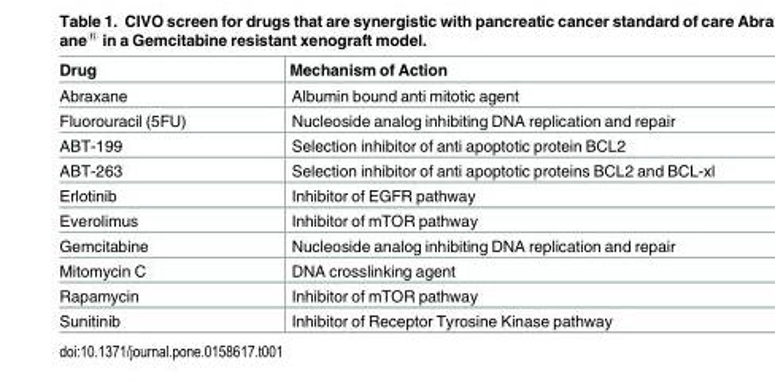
<table><thead><tr><td>Drug</td><td>Mechanism of Action</td></tr></thead><tbody><tr><td>Abraxane</td><td>Albumin bound anti mitotic agent</td></tr><tr><td>Fluorouracil (5FU)</td><td>Nucleoside analog inhibiting DNA replication and repair</td></tr><tr><td>ABT-199</td><td>Selection inhibitor of anti apoptotic protein BCL2</td></tr><tr><td>ABT-263</td><td>Selection inhibitor of anti apoptotic proteins BCL2 and BCL-xl</td></tr><tr><td>Erlotinib</td><td>Inhibitor of EGFR pathway</td></tr><tr><td>Everolimus</td><td>Inhibitor of mTOR pathway</td></tr><tr><td>Gemcitabine</td><td>Nucleoside analog inhibiting DNA replication and repair</td></tr><tr><td>Mitomycin C</td><td>DNA crosslinking agent</td></tr><tr><td>Rapamycin</td><td>Inhibitor of mTOR pathway</td></tr><tr><td>Sunitinib</td><td>Inhibitor of Receptor Tyrosine Kinase pathway</td></tr></tbody></table>